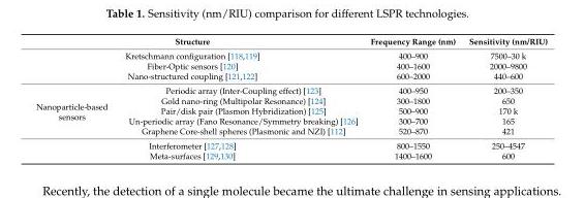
<table><thead><tr><td colspan="2">Structure</td><td>Frequency Range (nm)</td><td>Sensitivity (nm/RIU)</td></tr></thead><tbody><tr><td colspan="2">Kretschmann configuration [118,119]</td><td>400–900</td><td>7500–30 k</td></tr><tr><td colspan="2">Fiber-Optic sensors [120]</td><td>400–1600</td><td>2000–9800</td></tr><tr><td colspan="2">Nano-structured coupling [121,122]</td><td>600–2000</td><td>440–600</td></tr><tr><td rowspan="5">Nanoparticle-based sensors</td><td>Periodic array (Inter-Coupling effect) [123]</td><td>400–950</td><td>200–350</td></tr><tr><td>Gold nano-ring (Multipolar Resonance) [124]</td><td>300–1800</td><td>650</td></tr><tr><td>Pair/disk pair (Plasmon Hybridization) [125]</td><td>500–900</td><td>170 k</td></tr><tr><td>Un-periodic array (Fano Resonance/Symmetry breaking) [126]</td><td>300–700</td><td>165</td></tr><tr><td>Graphene Core-shell spheres (Plasmonic and NZI) [112]</td><td>520–870</td><td>421</td></tr><tr><td colspan="2">Interferometer [127,128]</td><td>800–1550</td><td>250–4547</td></tr><tr><td colspan="2">Meta-surfaces [129,130]</td><td>1400–1600</td><td>600</td></tr></tbody></table>